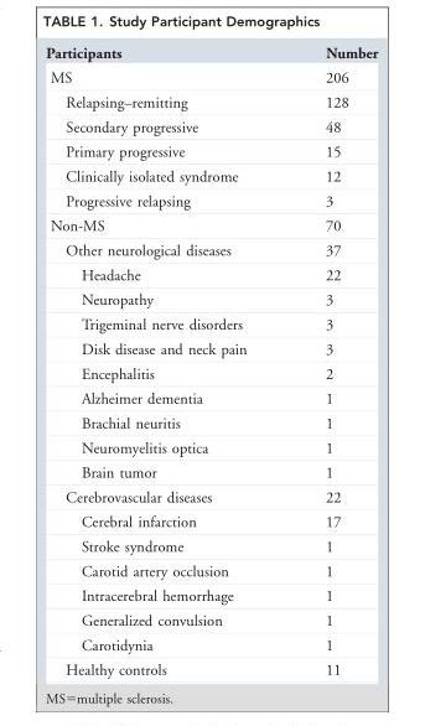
<table><thead><tr><td>Participants</td><td>Number</td></tr></thead><tbody><tr><td>MS</td><td>206</td></tr><tr><td>Relapsing–remitting</td><td>128</td></tr><tr><td>Secondary progressive</td><td>48</td></tr><tr><td>Primary progressive</td><td>15</td></tr><tr><td>Clinically isolated syndrome</td><td>12</td></tr><tr><td>Progressive relapsing</td><td>3</td></tr><tr><td>Non-MS</td><td>70</td></tr><tr><td>Other neurological diseases</td><td>37</td></tr><tr><td>Headache</td><td>22</td></tr><tr><td>Neuropathy</td><td>3</td></tr><tr><td>Trigeminal nerve disorders</td><td>3</td></tr><tr><td>Disk disease and neck pain</td><td>3</td></tr><tr><td>Encephalitis</td><td>2</td></tr><tr><td>Alzheimer dementia</td><td>1</td></tr><tr><td>Brachial neuritis</td><td>1</td></tr><tr><td>Neuromyelitis optica</td><td>1</td></tr><tr><td>Brain tumor</td><td>1</td></tr><tr><td>Cerebrovascular diseases</td><td>22</td></tr><tr><td>Cerebral infarction</td><td>17</td></tr><tr><td>Stroke syndrome</td><td>1</td></tr><tr><td>Carotid artery occlusion</td><td>1</td></tr><tr><td>Intracerebral hemorrhage</td><td>1</td></tr><tr><td>Generalized convulsion</td><td>1</td></tr><tr><td>Carotidynia</td><td>1</td></tr><tr><td>Healthy controls</td><td>11</td></tr></tbody></table>